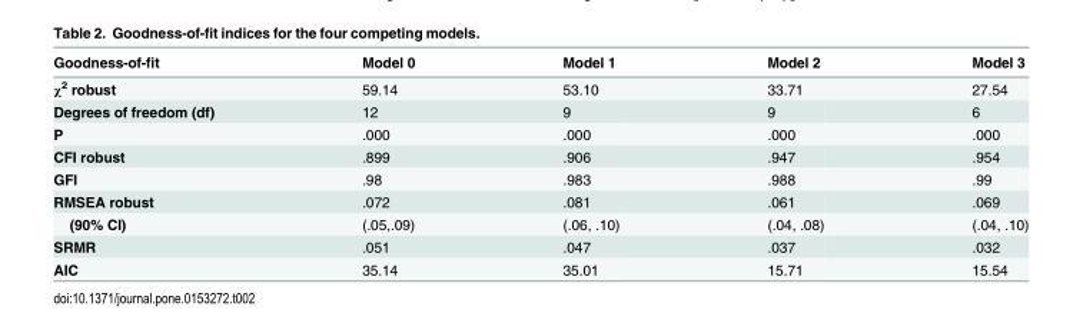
<table><thead><tr><td>Goodness-of-fit</td><td>Model 0</td><td>Model 1</td><td>Model 2</td><td>Model 3</td></tr></thead><tbody><tr><td>χ<sup>2</sup> robust</td><td>59.14</td><td>53.10</td><td>33.71</td><td>27.54</td></tr><tr><td>Degrees of freedom (df)</td><td>12</td><td>9</td><td>9</td><td>6</td></tr><tr><td>P</td><td>.000</td><td>.000</td><td>.000</td><td>.000</td></tr><tr><td>CFI robust</td><td>.899</td><td>.906</td><td>.947</td><td>.954</td></tr><tr><td>GFI</td><td>.98</td><td>.983</td><td>.988</td><td>.99</td></tr><tr><td>RMSEA robust</td><td>.072</td><td>.081</td><td>.061</td><td>.069</td></tr><tr><td>(90% CI)</td><td>(.05,.09)</td><td>(.06, .10)</td><td>(.04, .08)</td><td>(.04, .10)</td></tr><tr><td>SRMR</td><td>.051</td><td>.047</td><td>.037</td><td>.032</td></tr><tr><td>AIC</td><td>35.14</td><td>35.01</td><td>15.71</td><td>15.54</td></tr></tbody></table>